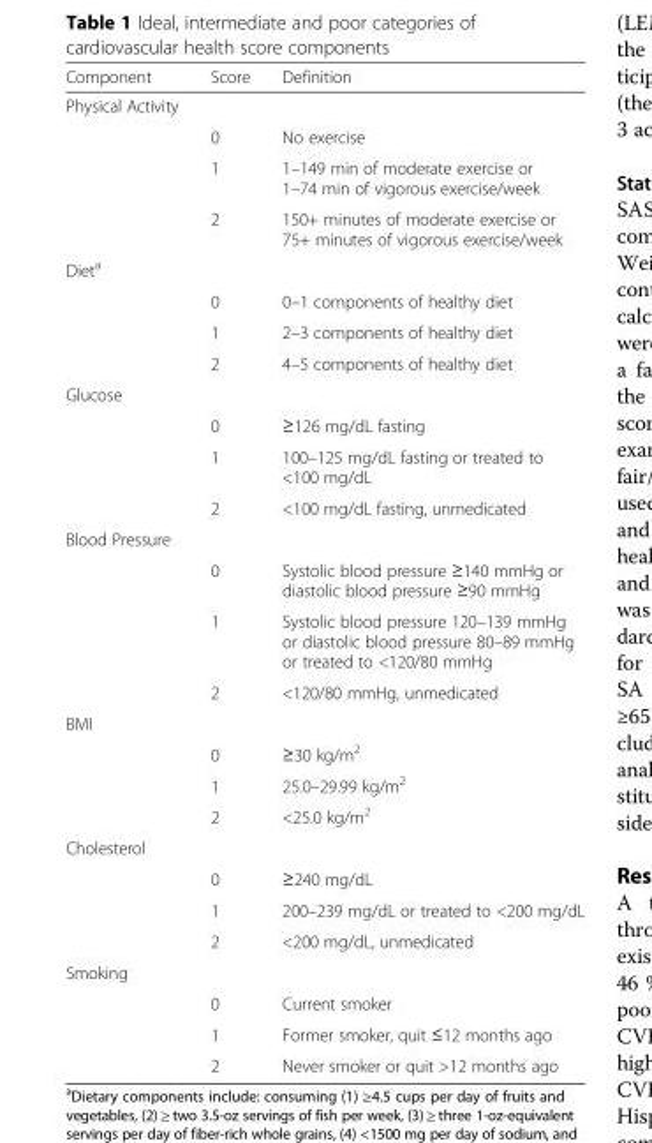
<table><thead><tr><td>Component</td><td>Score</td><td>Definition</td></tr></thead><tbody><tr><td colspan="3">Physical Activity</td></tr><tr><td></td><td>0</td><td>No exercise</td></tr><tr><td></td><td>1</td><td>1–149 min of moderate exercise or 1–74 min of vigorous exercise/week</td></tr><tr><td></td><td>2</td><td>150+ minutes of moderate exercise or 75+ minutes of vigorous exercise/week</td></tr><tr><td colspan="3">Diet<sup>a</sup></td></tr><tr><td></td><td>0</td><td>0–1 components of healthy diet</td></tr><tr><td></td><td>1</td><td>2–3 components of healthy diet</td></tr><tr><td></td><td>2</td><td>4–5 components of healthy diet</td></tr><tr><td colspan="3">Glucose</td></tr><tr><td></td><td>0</td><td>≥126 mg/dL fasting</td></tr><tr><td></td><td>1</td><td>100–125 mg/dL fasting or treated to &lt;100 mg/dL</td></tr><tr><td></td><td>2</td><td>&lt;100 mg/dL fasting, unmedicated</td></tr><tr><td colspan="3">Blood Pressure</td></tr><tr><td></td><td>0</td><td>Systolic blood pressure ≥140 mmHg or diastolic blood pressure ≥90 mmHg</td></tr><tr><td></td><td>1</td><td>Systolic blood pressure 120–139 mmHg or diastolic blood pressure 80–89 mmHg or treated to &lt;120/80 mmHg</td></tr><tr><td></td><td>2</td><td>&lt;120/80 mmHg, unmedicated</td></tr><tr><td colspan="3">BMI</td></tr><tr><td></td><td>0</td><td>≥30 kg/m<sup>2</sup></td></tr><tr><td></td><td>1</td><td>25.0–29.99 kg/m<sup>2</sup></td></tr><tr><td></td><td>2</td><td>&lt;25.0 kg/m<sup>2</sup></td></tr><tr><td colspan="3">Cholesterol</td></tr><tr><td></td><td>0</td><td>≥240 mg/dL</td></tr><tr><td></td><td>1</td><td>200–239 mg/dL or treated to &lt;200 mg/dL</td></tr><tr><td></td><td>2</td><td>&lt;200 mg/dL, unmedicated</td></tr><tr><td colspan="3">Smoking</td></tr><tr><td></td><td>0</td><td>Current smoker</td></tr><tr><td></td><td>1</td><td>Former smoker, quit ≤12 months ago</td></tr><tr><td></td><td>2</td><td>Never smoker or quit &gt;12 months ago</td></tr></tbody></table>